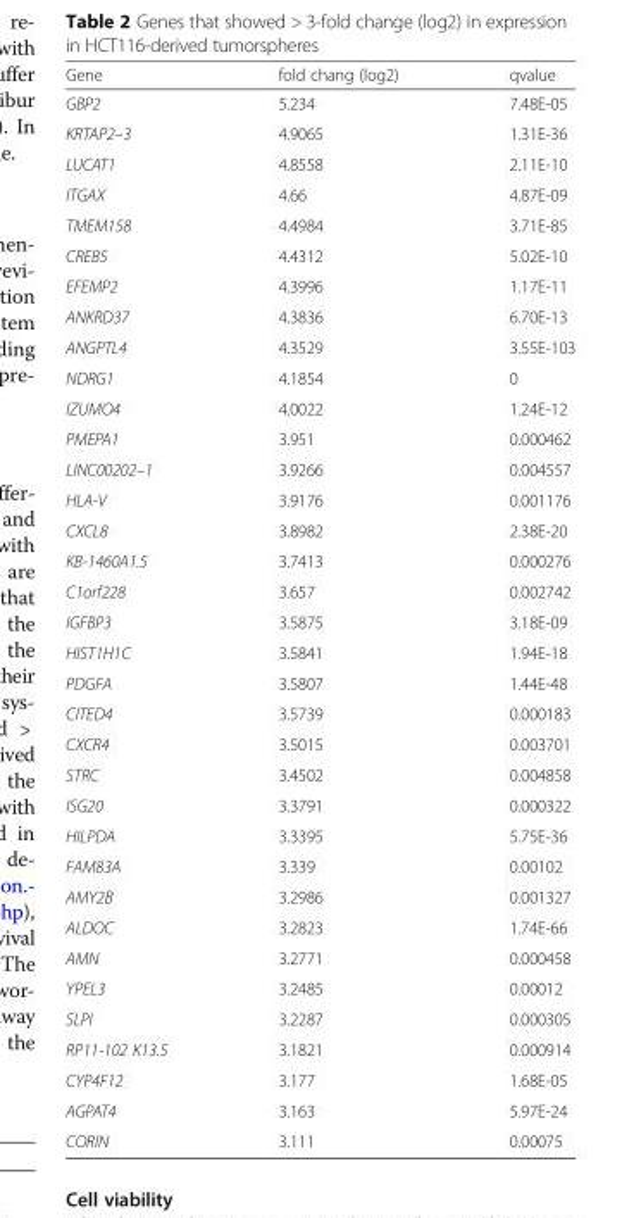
<table><thead><tr><td>Gene</td><td>fold chang (log2)</td><td>qvalue</td></tr></thead><tbody><tr><td>GBP2</td><td>5.234</td><td>7.48E-05</td></tr><tr><td>KRTAP2–3</td><td>4.9065</td><td>1.31E-36</td></tr><tr><td>LUCAT1</td><td>4.8558</td><td>2.11E-10</td></tr><tr><td>ITGAX</td><td>4.66</td><td>4.87E-09</td></tr><tr><td>TMEM158</td><td>4.4984</td><td>3.71E-85</td></tr><tr><td>CREB5</td><td>4.4312</td><td>5.02E-10</td></tr><tr><td>EFEMP2</td><td>4.3996</td><td>1.17E-11</td></tr><tr><td>ANKRD37</td><td>4.3836</td><td>6.70E-13</td></tr><tr><td>ANGPTL4</td><td>4.3529</td><td>3.55E-103</td></tr><tr><td>NDRG1</td><td>4.1854</td><td>0</td></tr><tr><td>IZUMO4</td><td>4.0022</td><td>1.24E-12</td></tr><tr><td>PMEPA1</td><td>3.951</td><td>0.000462</td></tr><tr><td>LINC00202–1</td><td>3.9266</td><td>0.004557</td></tr><tr><td>HLA-V</td><td>3.9176</td><td>0.001176</td></tr><tr><td>CXCL8</td><td>3.8982</td><td>2.38E-20</td></tr><tr><td>KB-1460A1.5</td><td>3.7413</td><td>0.000276</td></tr><tr><td>C1orf228</td><td>3.657</td><td>0.002742</td></tr><tr><td>IGFBP3</td><td>3.5875</td><td>3.18E-09</td></tr><tr><td>HIST1H1C</td><td>3.5841</td><td>1.94E-18</td></tr><tr><td>PDGFA</td><td>3.5807</td><td>1.44E-48</td></tr><tr><td>CITED4</td><td>3.5739</td><td>0.000183</td></tr><tr><td>CXCR4</td><td>3.5015</td><td>0.003701</td></tr><tr><td>STRC</td><td>3.4502</td><td>0.004858</td></tr><tr><td>ISG20</td><td>3.3791</td><td>0.000322</td></tr><tr><td>HILPDA</td><td>3.3395</td><td>5.75E-36</td></tr><tr><td>FAM83A</td><td>3.339</td><td>0.00102</td></tr><tr><td>AMY2B</td><td>3.2986</td><td>0.001327</td></tr><tr><td>ALDOC</td><td>3.2823</td><td>1.74E-66</td></tr><tr><td>AMN</td><td>3.2771</td><td>0.000458</td></tr><tr><td>YPEL3</td><td>3.2485</td><td>0.00012</td></tr><tr><td>SLPI</td><td>3.2287</td><td>0.000305</td></tr><tr><td>RP11-102 K13.5</td><td>3.1821</td><td>0.000914</td></tr><tr><td>CYP4F12</td><td>3.177</td><td>1.68E-05</td></tr><tr><td>AGPAT4</td><td>3.163</td><td>5.97E-24</td></tr><tr><td>CORIN</td><td>3.111</td><td>0.00075</td></tr></tbody></table>